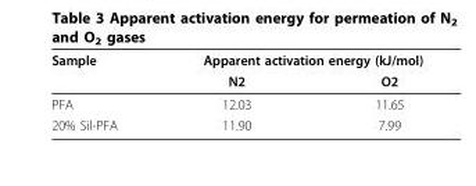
<table><thead><tr><td rowspan="2">Sample</td><td colspan="2">Apparent activation energy (kJ/mol)</td></tr><tr><td>N2</td><td>O2</td></tr></thead><tbody><tr><td>PFA</td><td>12.03</td><td>11.65</td></tr><tr><td>20% Sil-PFA</td><td>11.90</td><td>7.99</td></tr></tbody></table>